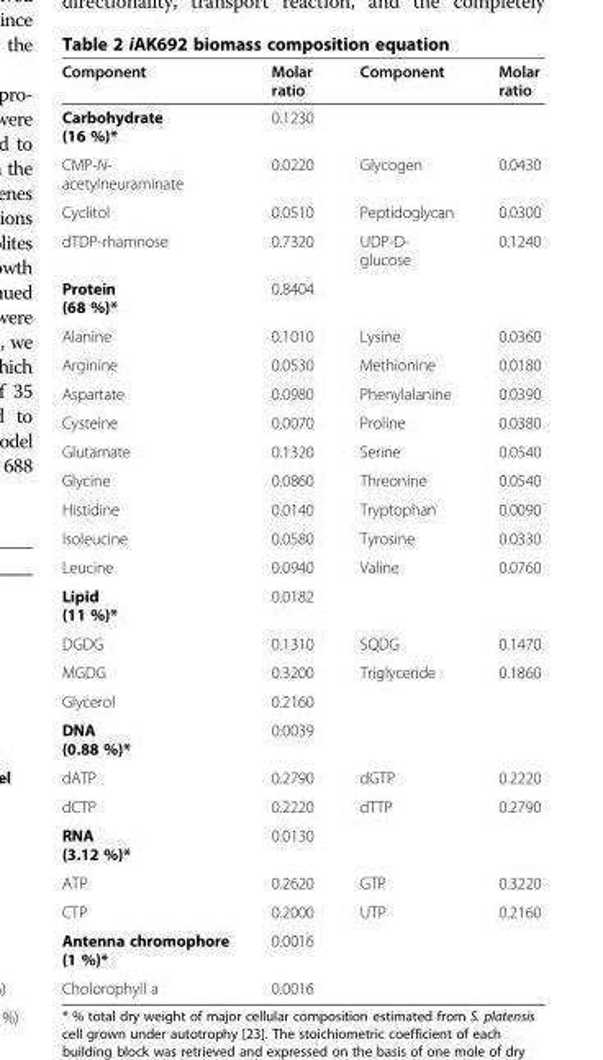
<table><thead><tr><td>Component</td><td>Molar ratio</td><td>Component</td><td>Molar ratio</td></tr></thead><tbody><tr><td>Carbohydrate (16 %)*</td><td>0.1230</td><td></td><td></td></tr><tr><td>CMP-N- acetylneuraminate</td><td>0.0220</td><td>Glycogen</td><td>0.0430</td></tr><tr><td>Cyclitol</td><td>0.0510</td><td>Peptidoglycan</td><td>0.0300</td></tr><tr><td>dTDP-rhamnose</td><td>0.7320</td><td>UDP-D- glucose</td><td>0.1240</td></tr><tr><td>Protein (68 %)*</td><td>0.8404</td><td></td><td></td></tr><tr><td>Alanine</td><td>0.1010</td><td>Lysine</td><td>0.0360</td></tr><tr><td>Arginine</td><td>0.0530</td><td>Methionine</td><td>0.0180</td></tr><tr><td>Aspartate</td><td>0.0980</td><td>Phenylalanine</td><td>0.0390</td></tr><tr><td>Cysteine</td><td>0.0070</td><td>Proline</td><td>0.0380</td></tr><tr><td>Glutamate</td><td>0.1320</td><td>Serine</td><td>0.0540</td></tr><tr><td>Glycine</td><td>0.0860</td><td>Threonine</td><td>0.0540</td></tr><tr><td>Histidine</td><td>0.0140</td><td>Tryptophan</td><td>0.0090</td></tr><tr><td>Isoleucine</td><td>0.0580</td><td>Tyrosine</td><td>0.0330</td></tr><tr><td>Leucine</td><td>0.0940</td><td>Valine</td><td>0.0760</td></tr><tr><td>Lipid (11 %)*</td><td>0.0182</td><td></td><td></td></tr><tr><td>DGDG</td><td>0.1310</td><td>SQDG</td><td>0.1470</td></tr><tr><td>MGDG</td><td>0.3200</td><td>Triglyceride</td><td>0.1860</td></tr><tr><td>Glycerol</td><td>0.2160</td><td></td><td></td></tr><tr><td>DNA (0.88 %)*</td><td>0.0039</td><td></td><td></td></tr><tr><td>dATP</td><td>0.2790</td><td>dGTP</td><td>0.2220</td></tr><tr><td>dCTP</td><td>0.2220</td><td>dTTP</td><td>0.2790</td></tr><tr><td>RNA (3.12 %)*</td><td>0.0130</td><td></td><td></td></tr><tr><td>ATP</td><td>0.2620</td><td>GTP</td><td>0.3220</td></tr><tr><td>CTP</td><td>0.2000</td><td>UTP</td><td>0.2160</td></tr><tr><td>Antenna chromophore (1 %)*</td><td>0.0016</td><td></td><td></td></tr><tr><td>Cholorophyll a</td><td>0.0016</td><td></td><td></td></tr></tbody></table>